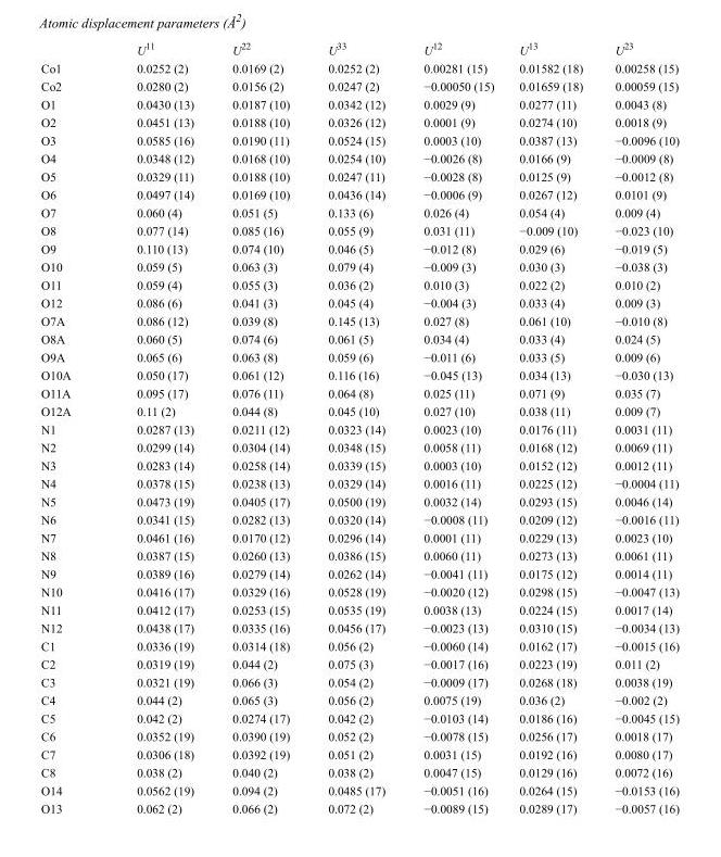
<table><thead><tr><td></td><td>U<sup>11</sup></td><td>U<sup>22</sup></td><td>U<sup>33</sup></td><td>U<sup>12</sup></td><td>U<sup>13</sup></td><td>U<sup>23</sup></td></tr></thead><tbody><tr><td>Co1</td><td>0.0252 (2)</td><td>0.0169 (2)</td><td>0.0252 (2)</td><td>0.00281 (15)</td><td>0.01582 (18)</td><td>0.00258 (15)</td></tr><tr><td>Co2</td><td>0.0280 (2)</td><td>0.0156 (2)</td><td>0.0247 (2)</td><td>−0.00050 (15)</td><td>0.01659 (18)</td><td>0.00059 (15)</td></tr><tr><td>O1</td><td>0.0430 (13)</td><td>0.0187 (10)</td><td>0.0342 (12)</td><td>0.0029 (9)</td><td>0.0277 (11)</td><td>0.0043 (8)</td></tr><tr><td>O2</td><td>0.0451 (13)</td><td>0.0188 (10)</td><td>0.0326 (12)</td><td>0.0001 (9)</td><td>0.0274 (10)</td><td>0.0018 (9)</td></tr><tr><td>O3</td><td>0.0585 (16)</td><td>0.0190 (11)</td><td>0.0524 (15)</td><td>0.0003 (10)</td><td>0.0387 (13)</td><td>−0.0096 (10)</td></tr><tr><td>O4</td><td>0.0348 (12)</td><td>0.0168 (10)</td><td>0.0254 (10)</td><td>−0.0026 (8)</td><td>0.0166 (9)</td><td>−0.0009 (8)</td></tr><tr><td>O5</td><td>0.0329 (11)</td><td>0.0188 (10)</td><td>0.0247 (11)</td><td>−0.0028 (8)</td><td>0.0125 (9)</td><td>−0.0012 (8)</td></tr><tr><td>O6</td><td>0.0497 (14)</td><td>0.0169 (10)</td><td>0.0436 (14)</td><td>−0.0006 (9)</td><td>0.0267 (12)</td><td>0.0101 (9)</td></tr><tr><td>O7</td><td>0.060 (4)</td><td>0.051 (5)</td><td>0.133 (6)</td><td>0.026 (4)</td><td>0.054 (4)</td><td>0.009 (4)</td></tr><tr><td>O8</td><td>0.077 (14)</td><td>0.085 (16)</td><td>0.055 (9)</td><td>0.031 (11)</td><td>−0.009 (10)</td><td>−0.023 (10)</td></tr><tr><td>O9</td><td>0.110 (13)</td><td>0.074 (10)</td><td>0.046 (5)</td><td>−0.012 (8)</td><td>0.029 (6)</td><td>−0.019 (5)</td></tr><tr><td>O10</td><td>0.059 (5)</td><td>0.063 (3)</td><td>0.079 (4)</td><td>−0.009 (3)</td><td>0.030 (3)</td><td>−0.038 (3)</td></tr><tr><td>O11</td><td>0.059 (4)</td><td>0.055 (3)</td><td>0.036 (2)</td><td>0.010 (3)</td><td>0.022 (2)</td><td>0.010 (2)</td></tr><tr><td>O12</td><td>0.086 (6)</td><td>0.041 (3)</td><td>0.045 (4)</td><td>−0.004 (3)</td><td>0.033 (4)</td><td>0.009 (3)</td></tr><tr><td>O7A</td><td>0.086 (12)</td><td>0.039 (8)</td><td>0.145 (13)</td><td>0.027 (8)</td><td>0.061 (10)</td><td>−0.010 (8)</td></tr><tr><td>O8A</td><td>0.060 (5)</td><td>0.074 (6)</td><td>0.061 (5)</td><td>0.034 (4)</td><td>0.033 (4)</td><td>0.024 (5)</td></tr><tr><td>O9A</td><td>0.065 (6)</td><td>0.063 (8)</td><td>0.059 (6)</td><td>−0.011 (6)</td><td>0.033 (5)</td><td>0.009 (6)</td></tr><tr><td>O10A</td><td>0.050 (17)</td><td>0.061 (12)</td><td>0.116 (16)</td><td>−0.045 (13)</td><td>0.034 (13)</td><td>−0.030 (13)</td></tr><tr><td>O11A</td><td>0.095 (17)</td><td>0.076 (11)</td><td>0.064 (8)</td><td>0.025 (11)</td><td>0.071 (9)</td><td>0.035 (7)</td></tr><tr><td>O12A</td><td>0.11 (2)</td><td>0.044 (8)</td><td>0.045 (10)</td><td>0.027 (10)</td><td>0.038 (11)</td><td>0.009 (7)</td></tr><tr><td>N1</td><td>0.0287 (13)</td><td>0.0211 (12)</td><td>0.0323 (14)</td><td>0.0023 (10)</td><td>0.0176 (11)</td><td>0.0031 (11)</td></tr><tr><td>N2</td><td>0.0299 (14)</td><td>0.0304 (14)</td><td>0.0348 (15)</td><td>0.0058 (11)</td><td>0.0168 (12)</td><td>0.0069 (11)</td></tr><tr><td>N3</td><td>0.0283 (14)</td><td>0.0258 (14)</td><td>0.0339 (15)</td><td>0.0003 (10)</td><td>0.0152 (12)</td><td>0.0012 (11)</td></tr><tr><td>N4</td><td>0.0378 (15)</td><td>0.0238 (13)</td><td>0.0329 (14)</td><td>0.0016 (11)</td><td>0.0225 (12)</td><td>−0.0004 (11)</td></tr><tr><td>N5</td><td>0.0473 (19)</td><td>0.0405 (17)</td><td>0.0500 (19)</td><td>0.0032 (14)</td><td>0.0293 (15)</td><td>0.0046 (14)</td></tr><tr><td>N6</td><td>0.0341 (15)</td><td>0.0282 (13)</td><td>0.0320 (14)</td><td>−0.0008 (11)</td><td>0.0209 (12)</td><td>−0.0016 (11)</td></tr><tr><td>N7</td><td>0.0461 (16)</td><td>0.0170 (12)</td><td>0.0296 (14)</td><td>0.0001 (11)</td><td>0.0229 (13)</td><td>0.0023 (10)</td></tr><tr><td>N8</td><td>0.0387 (15)</td><td>0.0260 (13)</td><td>0.0386 (15)</td><td>0.0060 (11)</td><td>0.0273 (13)</td><td>0.0061 (11)</td></tr><tr><td>N9</td><td>0.0389 (16)</td><td>0.0279 (14)</td><td>0.0262 (14)</td><td>−0.0041 (11)</td><td>0.0175 (12)</td><td>0.0014 (11)</td></tr><tr><td>N10</td><td>0.0416 (17)</td><td>0.0329 (16)</td><td>0.0528 (19)</td><td>−0.0020 (12)</td><td>0.0298 (15)</td><td>−0.0047 (13)</td></tr><tr><td>N11</td><td>0.0412 (17)</td><td>0.0253 (15)</td><td>0.0535 (19)</td><td>0.0038 (13)</td><td>0.0224 (15)</td><td>0.0017 (14)</td></tr><tr><td>N12</td><td>0.0438 (17)</td><td>0.0335 (16)</td><td>0.0456 (17)</td><td>−0.0023 (13)</td><td>0.0310 (15)</td><td>−0.0034 (13)</td></tr><tr><td>C1</td><td>0.0336 (19)</td><td>0.0314 (18)</td><td>0.056 (2)</td><td>−0.0060 (14)</td><td>0.0162 (17)</td><td>−0.0015 (16)</td></tr><tr><td>C2</td><td>0.0319 (19)</td><td>0.044 (2)</td><td>0.075 (3)</td><td>−0.0017 (16)</td><td>0.0223 (19)</td><td>0.011 (2)</td></tr><tr><td>C3</td><td>0.0321 (19)</td><td>0.066 (3)</td><td>0.054 (2)</td><td>−0.0009 (17)</td><td>0.0268 (18)</td><td>0.0038 (19)</td></tr><tr><td>C4</td><td>0.044 (2)</td><td>0.065 (3)</td><td>0.056 (2)</td><td>0.0075 (19)</td><td>0.036 (2)</td><td>−0.002 (2)</td></tr><tr><td>C5</td><td>0.042 (2)</td><td>0.0274 (17)</td><td>0.042 (2)</td><td>−0.0103 (14)</td><td>0.0186 (16)</td><td>−0.0045 (15)</td></tr><tr><td>C6</td><td>0.0352 (19)</td><td>0.0390 (19)</td><td>0.052 (2)</td><td>−0.0078 (15)</td><td>0.0256 (17)</td><td>0.0018 (17)</td></tr><tr><td>C7</td><td>0.0306 (18)</td><td>0.0392 (19)</td><td>0.051 (2)</td><td>0.0031 (15)</td><td>0.0192 (16)</td><td>0.0080 (17)</td></tr><tr><td>C8</td><td>0.038 (2)</td><td>0.040 (2)</td><td>0.038 (2)</td><td>0.0047 (15)</td><td>0.0129 (16)</td><td>0.0072 (16)</td></tr><tr><td>O14</td><td>0.0562 (19)</td><td>0.094 (2)</td><td>0.0485 (17)</td><td>−0.0051 (16)</td><td>0.0264 (15)</td><td>−0.0153 (16)</td></tr><tr><td>O13</td><td>0.062 (2)</td><td>0.066 (2)</td><td>0.072 (2)</td><td>−0.0089 (15)</td><td>0.0289 (17)</td><td>−0.0057 (16)</td></tr></tbody></table>